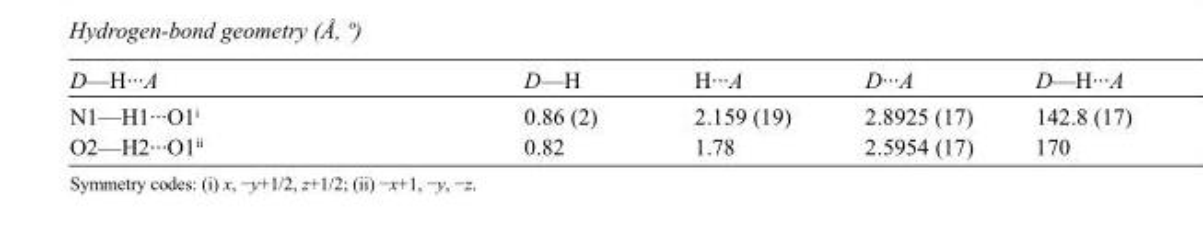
<table><tbody><tr><td>D—H···A</td><td>D—H</td><td>H···A</td><td>D···A</td><td>D—H···A</td></tr><tr><td>N1—H1···O1<sup>i</sup></td><td>0.86 (2)</td><td>2.159 (19)</td><td>2.8925 (17)</td><td>142.8 (17)</td></tr><tr><td>O2—H2···O1<sup>ii</sup></td><td>0.82</td><td>1.78</td><td>2.5954 (17)</td><td>170</td></tr></tbody></table>